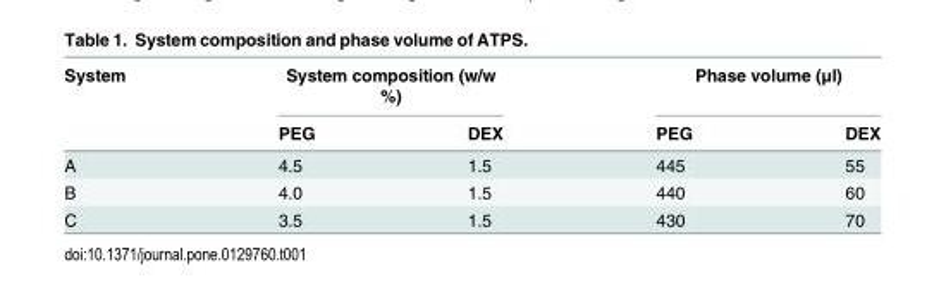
<table><thead><tr><td rowspan="2">System</td><td colspan="2">System composition (w/w %)</td><td colspan="2">Phase volume (μl)</td></tr><tr><td>PEG</td><td>DEX</td><td>PEG</td><td>DEX</td></tr></thead><tbody><tr><td>A</td><td>4.5</td><td>1.5</td><td>445</td><td>55</td></tr><tr><td>B</td><td>4.0</td><td>1.5</td><td>440</td><td>60</td></tr><tr><td>C</td><td>3.5</td><td>1.5</td><td>430</td><td>70</td></tr></tbody></table>